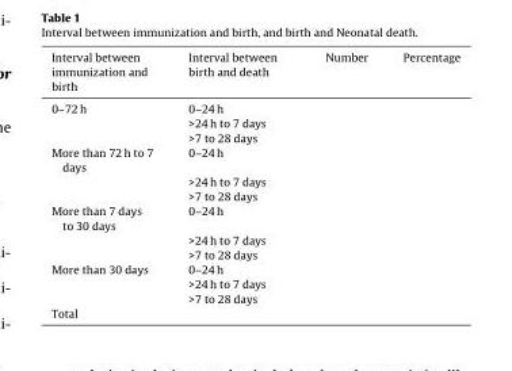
<table><thead><tr><td>Interval between immunization and birth</td><td>Interval between birth and death</td><td>Number</td><td>Percentage</td></tr></thead><tbody><tr><td rowspan="3">0–72 h</td><td>0–24 h</td><td></td><td></td></tr><tr><td>&gt;24 h to 7 days</td><td></td><td></td></tr><tr><td>&gt;7 to 28 days</td><td></td><td></td></tr><tr><td rowspan="3">More than 72 h to 7 days</td><td>0–24 h</td><td></td><td></td></tr><tr><td>&gt;24 h to 7 days</td><td></td><td></td></tr><tr><td>&gt;7 to 28 days</td><td></td><td></td></tr><tr><td rowspan="3">More than 7 days to 30 days</td><td>0–24 h</td><td></td><td></td></tr><tr><td>&gt;24 h to 7 days</td><td></td><td></td></tr><tr><td>&gt;7 to 28 days</td><td></td><td></td></tr><tr><td rowspan="3">More than 30 days</td><td>0–24 h</td><td></td><td></td></tr><tr><td>&gt;24 h to 7 days</td><td></td><td></td></tr><tr><td>&gt;7 to 28 days</td><td></td><td></td></tr><tr><td>Total</td><td></td><td></td><td></td></tr></tbody></table>